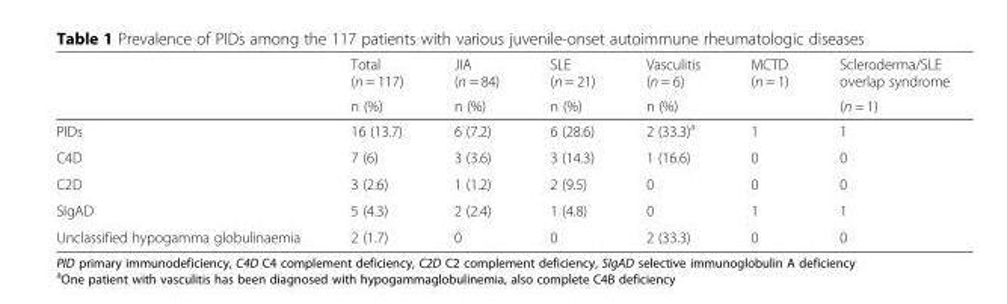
<table><thead><tr><td rowspan="2"></td><td rowspan="2">Total (n = 117) n (%)</td><td rowspan="2">JIA (n = 84) n (%)</td><td rowspan="2">SLE (n = 21) n (%)</td><td rowspan="2">Vasculitis (n = 6) n (%)</td><td rowspan="2">MCTD (n = 1)</td><td rowspan="2">Scleroderma/SLE overlap syndrome (n = 1)</td></tr><tr></tr></thead><tbody><tr><td>PIDs</td><td>16 (13.7)</td><td>6 (7.2)</td><td>6 (28.6)</td><td>2 (33.3)<sup>a</sup></td><td>1</td><td>1</td></tr><tr><td>C4D</td><td>7 (6)</td><td>3 (3.6)</td><td>3 (14.3)</td><td>1 (16.6)</td><td>0</td><td>0</td></tr><tr><td>C2D</td><td>3 (2.6)</td><td>1 (1.2)</td><td>2 (9.5)</td><td>0</td><td>0</td><td>0</td></tr><tr><td>SIgAD</td><td>5 (4.3)</td><td>2 (2.4)</td><td>1 (4.8)</td><td>0</td><td>1</td><td>1</td></tr><tr><td>Unclassified hypogamma globulinaemia</td><td>2 (1.7)</td><td>0</td><td>0</td><td>2 (33.3)</td><td>0</td><td>0</td></tr></tbody></table>